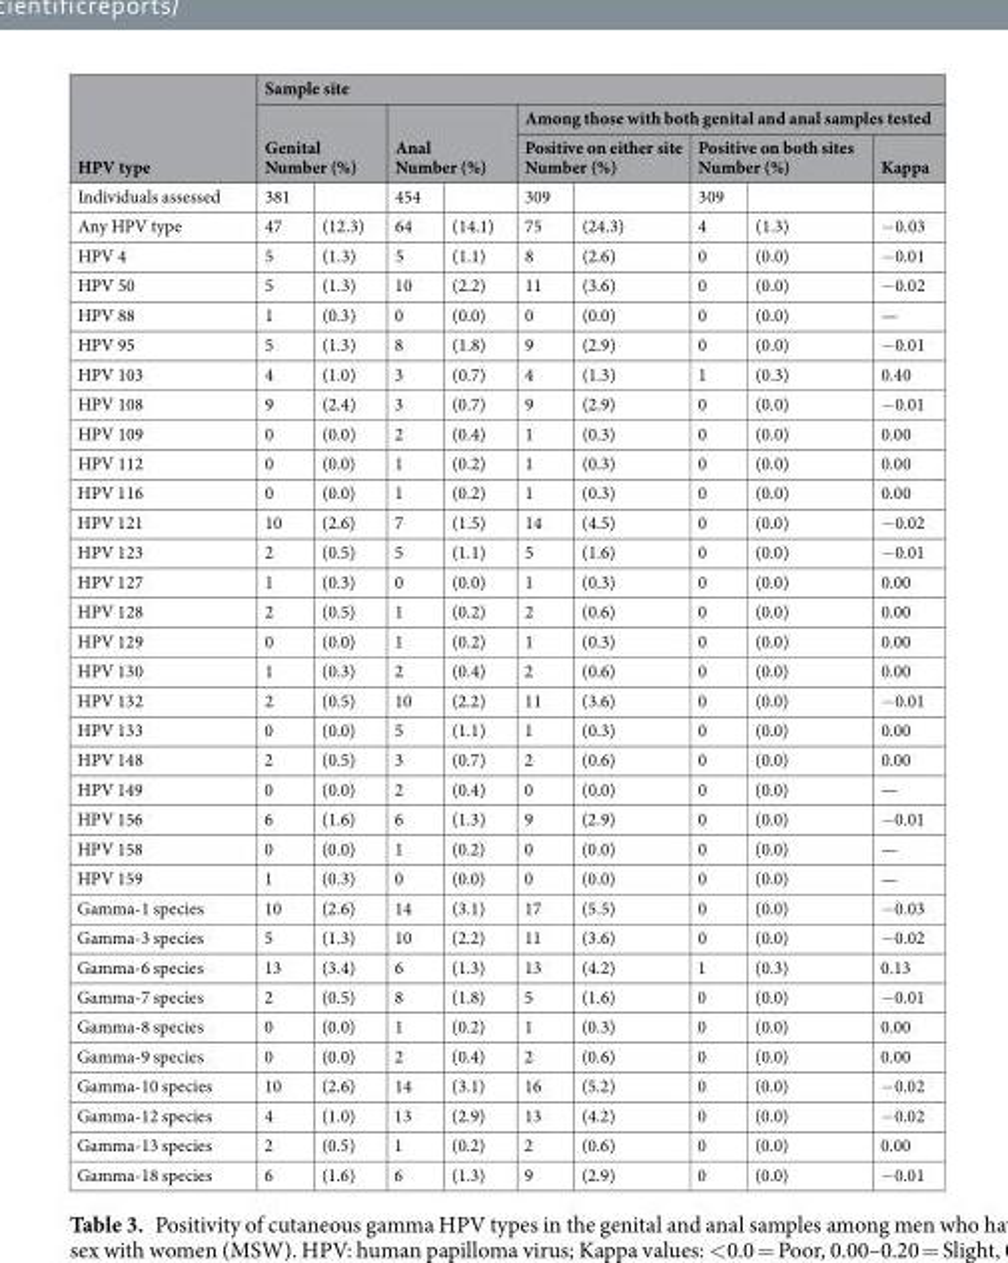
<table><thead><tr><td rowspan="4">HPV type Individuals assessed</td><td colspan="9">Sample site</td></tr><tr><td rowspan="2" colspan="2">Genital Number (%)</td><td rowspan="2" colspan="2">Anal Number (%)</td><td colspan="5">Among those with both genital and anal samples tested</td></tr><tr><td colspan="2">Positive on either site Number (%)</td><td colspan="2">Positive on both sites Number (%)</td><td rowspan="2">Kappa</td></tr><tr><td>381</td><td></td><td>454</td><td></td><td>309</td><td></td><td>309</td><td></td></tr></thead><tbody><tr><td>Any HPV type</td><td>47</td><td>(12.3)</td><td>64</td><td>(14.1)</td><td>75</td><td>(24.3)</td><td>4</td><td>(1.3)</td><td>−0.03</td></tr><tr><td>HPV 4</td><td>5</td><td>(1.3)</td><td>5</td><td>(1.1)</td><td>8</td><td>(2.6)</td><td>0</td><td>(0.0)</td><td>−0.01</td></tr><tr><td>HPV 50</td><td>5</td><td>(1.3)</td><td>10</td><td>(2.2)</td><td>11</td><td>(3.6)</td><td>0</td><td>(0.0)</td><td>−0.02</td></tr><tr><td>HPV 88</td><td>1</td><td>(0.3)</td><td>0</td><td>(0.0)</td><td>0</td><td>(0.0)</td><td>0</td><td>(0.0)</td><td>—</td></tr><tr><td>HPV 95</td><td>5</td><td>(1.3)</td><td>8</td><td>(1.8)</td><td>9</td><td>(2.9)</td><td>0</td><td>(0.0)</td><td>−0.01</td></tr><tr><td>HPV 103</td><td>4</td><td>(1.0)</td><td>3</td><td>(0.7)</td><td>4</td><td>(1.3)</td><td>1</td><td>(0.3)</td><td>0.40</td></tr><tr><td>HPV 108</td><td>9</td><td>(2.4)</td><td>3</td><td>(0.7)</td><td>9</td><td>(2.9)</td><td>0</td><td>(0.0)</td><td>−0.01</td></tr><tr><td>HPV 109</td><td>0</td><td>(0.0)</td><td>2</td><td>(0.4)</td><td>1</td><td>(0.3)</td><td>0</td><td>(0.0)</td><td>0.00</td></tr><tr><td>HPV 112</td><td>0</td><td>(0.0)</td><td>1</td><td>(0.2)</td><td>1</td><td>(0.3)</td><td>0</td><td>(0.0)</td><td>0.00</td></tr><tr><td>HPV 116</td><td>0</td><td>(0.0)</td><td>1</td><td>(0.2)</td><td>1</td><td>(0.3)</td><td>0</td><td>(0.0)</td><td>0.00</td></tr><tr><td>HPV 121</td><td>10</td><td>(2.6)</td><td>7</td><td>(1.5)</td><td>14</td><td>(4.5)</td><td>0</td><td>(0.0)</td><td>−0.02</td></tr><tr><td>HPV 123</td><td>2</td><td>(0.5)</td><td>5</td><td>(1.1)</td><td>5</td><td>(1.6)</td><td>0</td><td>(0.0)</td><td>−0.01</td></tr><tr><td>HPV 127</td><td>1</td><td>(0.3)</td><td>0</td><td>(0.0)</td><td>1</td><td>(0.3)</td><td>0</td><td>(0.0)</td><td>0.00</td></tr><tr><td>HPV 128</td><td>2</td><td>(0.5)</td><td>1</td><td>(0.2)</td><td>2</td><td>(0.6)</td><td>0</td><td>(0.0)</td><td>0.00</td></tr><tr><td>HPV 129</td><td>0</td><td>(0.0)</td><td>1</td><td>(0.2)</td><td>1</td><td>(0.3)</td><td>0</td><td>(0.0)</td><td>0.00</td></tr><tr><td>HPV 130</td><td>1</td><td>(0.3)</td><td>2</td><td>(0.4)</td><td>2</td><td>(0.6)</td><td>0</td><td>(0.0)</td><td>0.00</td></tr><tr><td>HPV 132</td><td>2</td><td>(0.5)</td><td>10</td><td>(2.2)</td><td>11</td><td>(3.6)</td><td>0</td><td>(0.0)</td><td>−0.01</td></tr><tr><td>HPV 133</td><td>0</td><td>(0.0)</td><td>5</td><td>(1.1)</td><td>1</td><td>(0.3)</td><td>0</td><td>(0.0)</td><td>0.00</td></tr><tr><td>HPV 148</td><td>2</td><td>(0.5)</td><td>3</td><td>(0.7)</td><td>2</td><td>(0.6)</td><td>0</td><td>(0.0)</td><td>0.00</td></tr><tr><td>HPV 149</td><td>0</td><td>(0.0)</td><td>2</td><td>(0.4)</td><td>0</td><td>(0.0)</td><td>0</td><td>(0.0)</td><td>—</td></tr><tr><td>HPV 156</td><td>6</td><td>(1.6)</td><td>6</td><td>(1.3)</td><td>9</td><td>(2.9)</td><td>0</td><td>(0.0)</td><td>−0.01</td></tr><tr><td>HPV 158</td><td>0</td><td>(0.0)</td><td>1</td><td>(0.2)</td><td>0</td><td>(0.0)</td><td>0</td><td>(0.0)</td><td>—</td></tr><tr><td>HPV 159</td><td>1</td><td>(0.3)</td><td>0</td><td>(0.0)</td><td>0</td><td>(0.0)</td><td>0</td><td>(0.0)</td><td>—</td></tr><tr><td>Gamma-1 species</td><td>10</td><td>(2.6)</td><td>14</td><td>(3.1)</td><td>17</td><td>(5.5)</td><td>0</td><td>(0.0)</td><td>−0.03</td></tr><tr><td>Gamma-3 species</td><td>5</td><td>(1.3)</td><td>10</td><td>(2.2)</td><td>11</td><td>(3.6)</td><td>0</td><td>(0.0)</td><td>−0.02</td></tr><tr><td>Gamma-6 species</td><td>13</td><td>(3.4)</td><td>6</td><td>(1.3)</td><td>13</td><td>(4.2)</td><td>1</td><td>(0.3)</td><td>0.13</td></tr><tr><td>Gamma-7 species</td><td>2</td><td>(0.5)</td><td>8</td><td>(1.8)</td><td>5</td><td>(1.6)</td><td>0</td><td>(0.0)</td><td>−0.01</td></tr><tr><td>Gamma-8 species</td><td>0</td><td>(0.0)</td><td>1</td><td>(0.2)</td><td>1</td><td>(0.3)</td><td>0</td><td>(0.0)</td><td>0.00</td></tr><tr><td>Gamma-9 species</td><td>0</td><td>(0.0)</td><td>2</td><td>(0.4)</td><td>2</td><td>(0.6)</td><td>0</td><td>(0.0)</td><td>0.00</td></tr><tr><td>Gamma-10 species</td><td>10</td><td>(2.6)</td><td>14</td><td>(3.1)</td><td>16</td><td>(5.2)</td><td>0</td><td>(0.0)</td><td>−0.02</td></tr><tr><td>Gamma-12 species</td><td>4</td><td>(1.0)</td><td>13</td><td>(2.9)</td><td>13</td><td>(4.2)</td><td>0</td><td>(0.0)</td><td>−0.02</td></tr><tr><td>Gamma-13 species</td><td>2</td><td>(0.5)</td><td>1</td><td>(0.2)</td><td>2</td><td>(0.6)</td><td>0</td><td>(0.0)</td><td>0.00</td></tr><tr><td>Gamma-18 species</td><td>6</td><td>(1.6)</td><td>6</td><td>(1.3)</td><td>9</td><td>(2.9)</td><td>0</td><td>(0.0)</td><td>−0.01</td></tr></tbody></table>